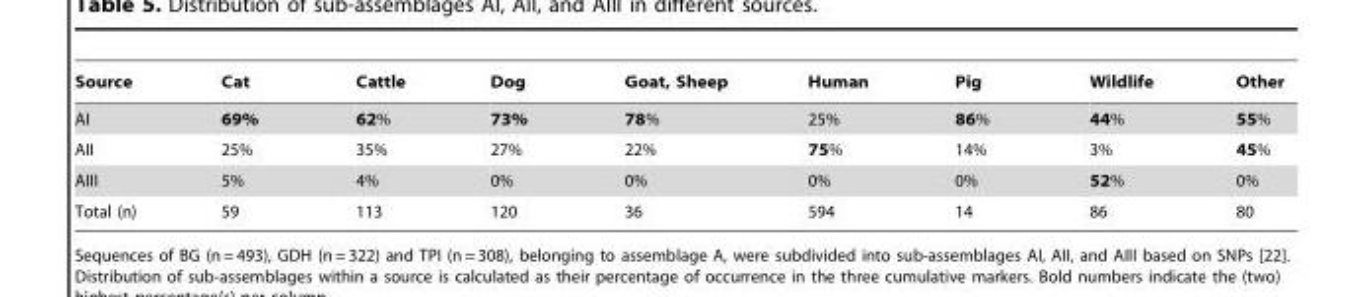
<table><thead><tr><td>Source</td><td>Cat</td><td>Cattle</td><td>Dog</td><td>Goat, Sheep</td><td>Human</td><td>Pig</td><td>Wildlife</td><td>Other</td></tr></thead><tbody><tr><td>AI</td><td>69%</td><td>62%</td><td>73%</td><td>78%</td><td>25%</td><td>86%</td><td>44%</td><td>55%</td></tr><tr><td>AII</td><td>25%</td><td>35%</td><td>27%</td><td>22%</td><td>75%</td><td>14%</td><td>3%</td><td>45%</td></tr><tr><td>AIII</td><td>5%</td><td>4%</td><td>0%</td><td>0%</td><td>0%</td><td>0%</td><td>52%</td><td>0%</td></tr><tr><td>Total (n)</td><td>59</td><td>113</td><td>120</td><td>36</td><td>594</td><td>14</td><td>86</td><td>80</td></tr></tbody></table>